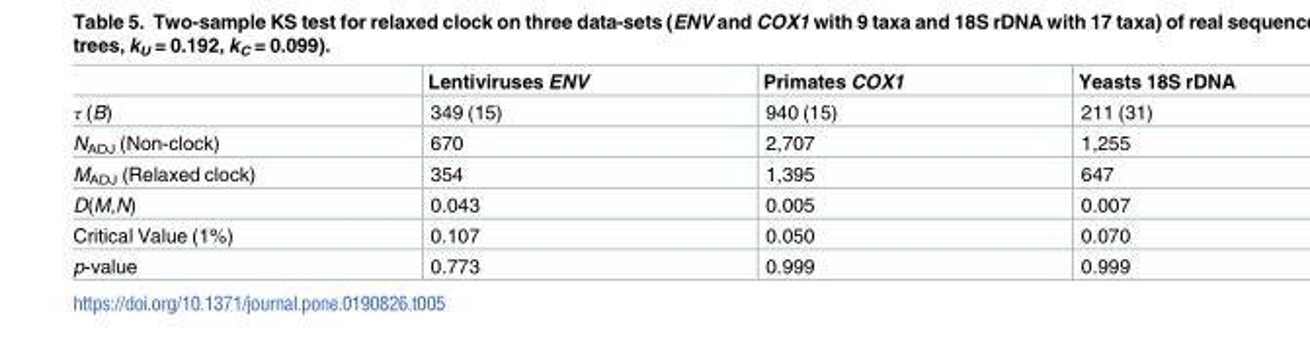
<table><thead><tr><td></td><td>Lentiviruses ENV</td><td>Primates COX1</td><td>Yeasts 18S rDNA</td></tr></thead><tbody><tr><td>τ (B)</td><td>349 (15)</td><td>940 (15)</td><td>211 (31)</td></tr><tr><td>N<sub>ADJ</sub> (Non-clock)</td><td>670</td><td>2,707</td><td>1,255</td></tr><tr><td>M<sub>ADJ</sub> (Relaxed clock)</td><td>354</td><td>1,395</td><td>647</td></tr><tr><td>D(M,N)</td><td>0.043</td><td>0.005</td><td>0.007</td></tr><tr><td>Critical Value (1%)</td><td>0.107</td><td>0.050</td><td>0.070</td></tr><tr><td>p-value</td><td>0.773</td><td>0.999</td><td>0.999</td></tr></tbody></table>